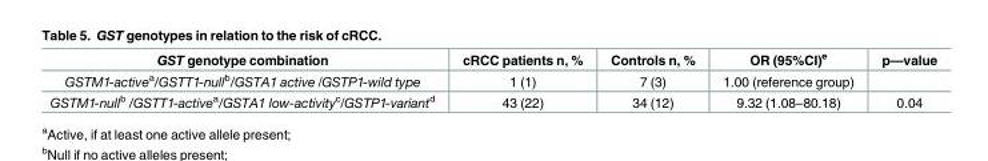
<table><thead><tr><td>GST genotype combination</td><td>cRCC patients n, %</td><td>Controls n, %</td><td>OR (95%CI)e</td><td>p—value</td></tr></thead><tbody><tr><td>GSTM1-activea/GSTT1-nullb/GSTA1 active /GSTP1-wild type</td><td>1 (1)</td><td>7 (3)</td><td>1.00 (reference group)</td><td></td></tr><tr><td>GSTM1-nullb /GSTT1-activea/GSTA1 low-activityc/GSTP1-variantd</td><td>43 (22)</td><td>34 (12)</td><td>9.32 (1.08–80.18)</td><td>0.04</td></tr></tbody></table>